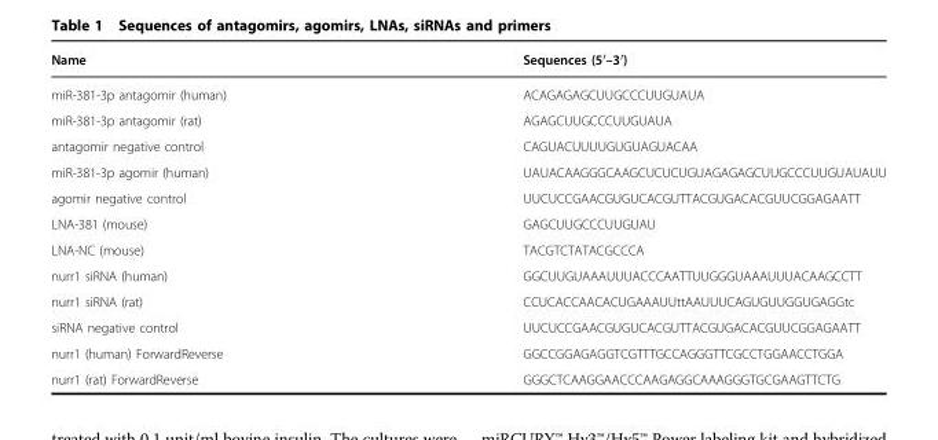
<table><thead><tr><td>Name</td><td>Sequences (5′–3′)</td></tr></thead><tbody><tr><td>miR-381-3p antagomir (human)</td><td>ACAGAGAGCUUGCCCUUGUAUA</td></tr><tr><td>miR-381-3p antagomir (rat)</td><td>AGAGCUUGCCCUUGUAUA</td></tr><tr><td>antagomir negative control</td><td>CAGUACUUUUGUGUAGUACAA</td></tr><tr><td>miR-381-3p agomir (human)</td><td>UAUACAAGGGCAAGCUCUCUGUAGAGAGCUUGCCCUUGUAUAUU</td></tr><tr><td>agomir negative control</td><td>UUCUCCGAACGUGUCACGUTTACGUGACACGUUCGGAGAATT</td></tr><tr><td>LNA-381 (mouse)</td><td>GAGCUUGCCCUUGUAU</td></tr><tr><td>LNA-NC (mouse)</td><td>TACGTCTATACGCCCA</td></tr><tr><td>nurr1 siRNA (human)</td><td>GGCUUGUAAAUUUACCCAATTUUGGGUAAAUUUACAAGCCTT</td></tr><tr><td>nurr1 siRNA (rat)</td><td>CCUCACCAACACUGAAAUUttAAUUUCAGUGUUGGUGAGGtc</td></tr><tr><td>siRNA negative control</td><td>UUCUCCGAACGUGUCACGUTTACGUGACACGUUCGGAGAATT</td></tr><tr><td>nurr1 (human) ForwardReverse</td><td>GGCCGGAGAGGTCGTTTGCCAGGGTTCGCCTGGAACCTGGA</td></tr><tr><td>nurr1 (rat) ForwardReverse</td><td>GGGCTCAAGGAACCCAAGAGGCAAAGGGTGCGAAGTTCTG</td></tr></tbody></table>